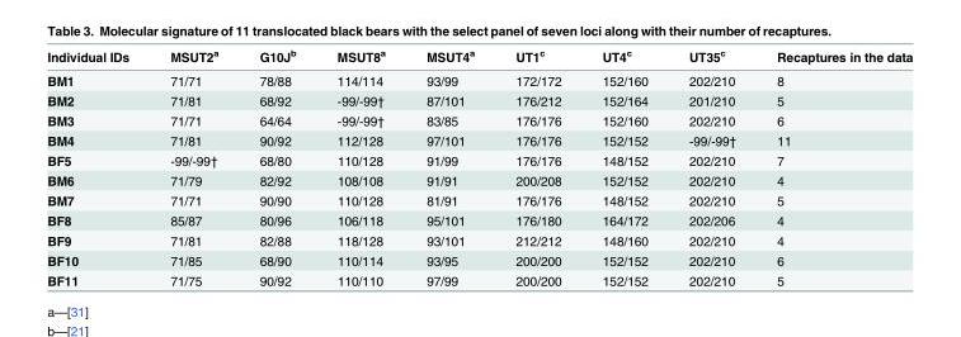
<table><thead><tr><td>Individual IDs</td><td>MSUT2<sup>a</sup></td><td>G10J<sup>b</sup></td><td>MSUT8<sup>a</sup></td><td>MSUT4<sup>a</sup></td><td>UT1<sup>c</sup></td><td>UT4<sup>c</sup></td><td>UT35<sup>c</sup></td><td>Recaptures in the data</td></tr></thead><tbody><tr><td>BM1</td><td>71/71</td><td>78/88</td><td>114/114</td><td>93/99</td><td>172/172</td><td>152/160</td><td>202/210</td><td>8</td></tr><tr><td>BM2</td><td>71/81</td><td>68/92</td><td>-99/-99†</td><td>87/101</td><td>176/212</td><td>152/164</td><td>201/210</td><td>5</td></tr><tr><td>BM3</td><td>71/71</td><td>64/64</td><td>-99/-99†</td><td>83/85</td><td>176/176</td><td>152/160</td><td>202/210</td><td>6</td></tr><tr><td>BM4</td><td>71/81</td><td>90/92</td><td>112/128</td><td>97/101</td><td>176/176</td><td>152/152</td><td>-99/-99†</td><td>11</td></tr><tr><td>BF5</td><td>-99/-99†</td><td>68/80</td><td>110/128</td><td>91/99</td><td>176/176</td><td>148/152</td><td>202/210</td><td>7</td></tr><tr><td>BM6</td><td>71/79</td><td>82/92</td><td>108/108</td><td>91/91</td><td>200/208</td><td>152/152</td><td>202/210</td><td>4</td></tr><tr><td>BM7</td><td>71/71</td><td>90/90</td><td>110/128</td><td>81/91</td><td>176/176</td><td>148/152</td><td>202/210</td><td>5</td></tr><tr><td>BF8</td><td>85/87</td><td>80/96</td><td>106/118</td><td>95/101</td><td>176/180</td><td>164/172</td><td>202/206</td><td>4</td></tr><tr><td>BF9</td><td>71/81</td><td>82/88</td><td>118/128</td><td>93/101</td><td>212/212</td><td>148/160</td><td>202/210</td><td>4</td></tr><tr><td>BF10</td><td>71/85</td><td>68/90</td><td>110/114</td><td>93/95</td><td>200/200</td><td>152/152</td><td>202/210</td><td>6</td></tr><tr><td>BF11</td><td>71/75</td><td>90/92</td><td>110/110</td><td>97/99</td><td>200/200</td><td>152/152</td><td>202/210</td><td>5</td></tr></tbody></table>